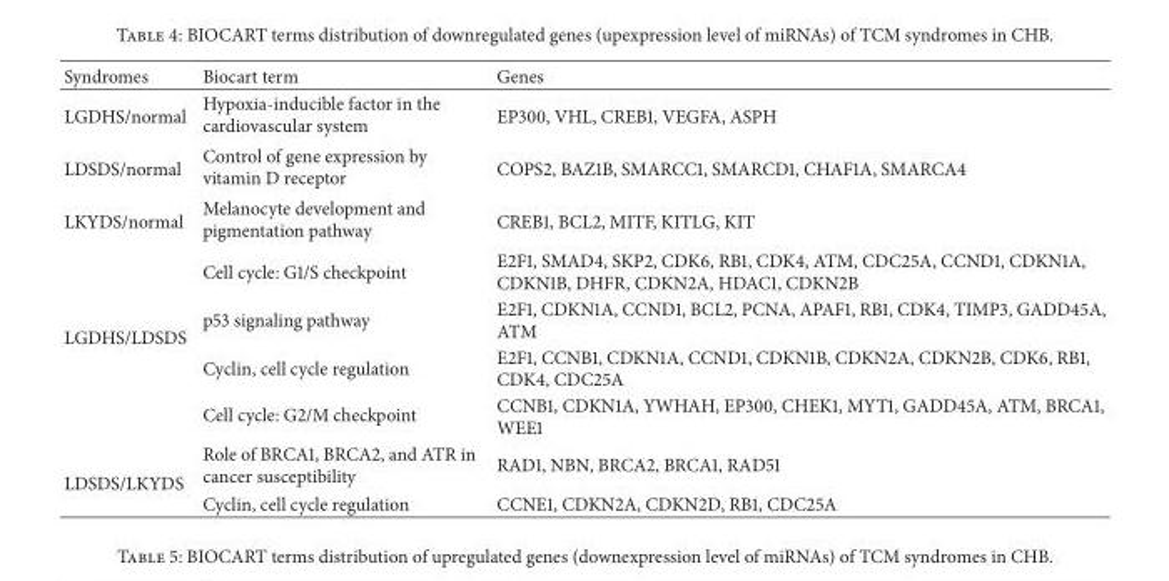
<table><thead><tr><td>Syndromes</td><td>Biocart term</td><td>Genes</td></tr></thead><tbody><tr><td>LGDHS/normal</td><td>Hypoxia-inducible factor in the cardiovascular system</td><td>EP300, VHL, CREB1, VEGFA, ASPH</td></tr><tr><td>LDSDS/normal</td><td>Control of gene expression by vitamin D receptor</td><td>COPS2, BAZ1B, SMARCC1, SMARCD1, CHAF1A, SMARCA4</td></tr><tr><td>LKYDS/normal</td><td>Melanocyte development and pigmentation pathway</td><td>CREB1, BCL2, MITF, KITLG, KIT</td></tr><tr><td rowspan="4">LGDHS/LDSDS</td><td>Cell cycle: G1/S checkpoint</td><td>E2F1, SMAD4, SKP2, CDK6, RB1, CDK4, ATM, CDC25A, CCND1, CDKN1A, CDKN1B, DHFR, CDKN2A, HDAC1, CDKN2B</td></tr><tr><td>p53 signaling pathway</td><td>E2F1, CDKN1A, CCND1, BCL2, PCNA, APAF1, RB1, CDK4, TIMP3, GADD45A, ATM</td></tr><tr><td>Cyclin, cell cycle regulation</td><td>E2F1, CCNB1, CDKN1A, CCND1, CDKN1B, CDKN2A, CDKN2B, CDK6, RB1, CDK4, CDC25A</td></tr><tr><td>Cell cycle: G2/M checkpoint</td><td>CCNB1, CDKN1A, YWHAH, EP300, CHEK1, MYT1, GADD45A, ATM, BRCA1, WEE1</td></tr><tr><td rowspan="2">LDSDS/LKYDS</td><td>Role of BRCA1, BRCA2, and ATR in cancer susceptibility</td><td>RAD1, NBN, BRCA2, BRCA1, RAD51</td></tr><tr><td>Cyclin, cell cycle regulation</td><td>CCNE1, CDKN2A, CDKN2D, RB1, CDC25A</td></tr></tbody></table>